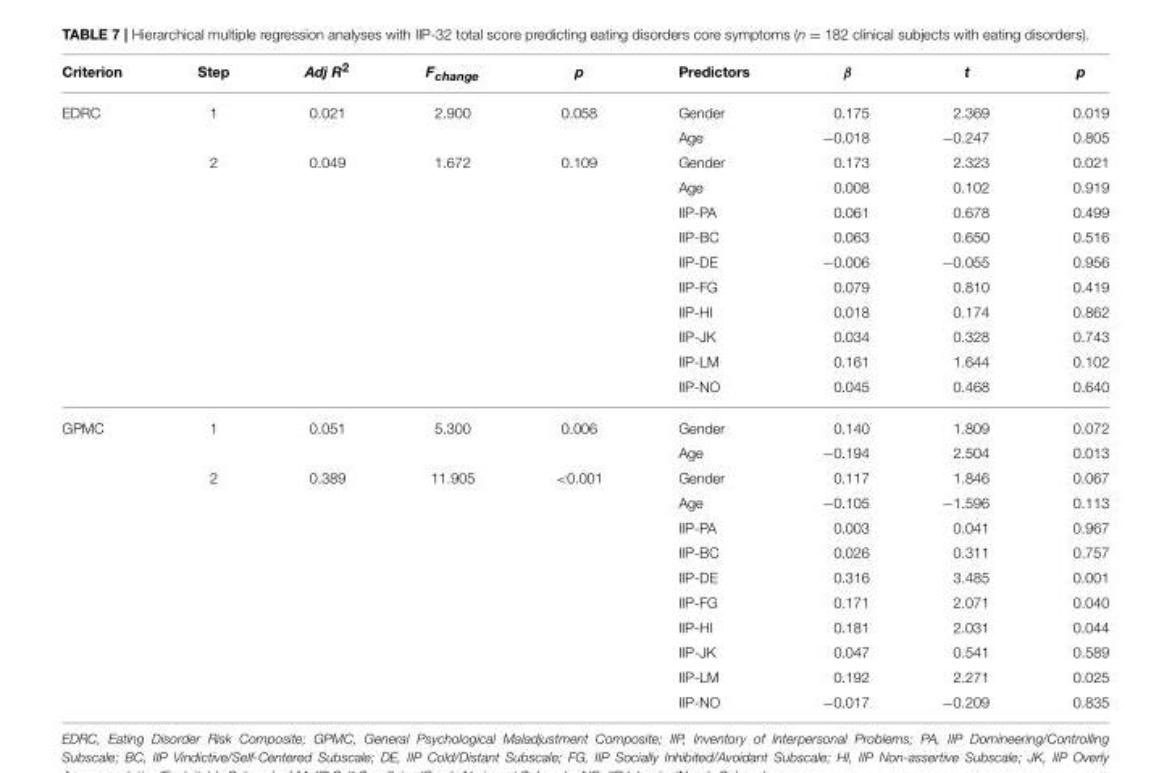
<table><thead><tr><td>Criterion</td><td>Step</td><td>Adj R<sup>2</sup></td><td>F<sub>change</sub></td><td>p</td><td>Predictors</td><td>β</td><td>t</td><td>p</td></tr></thead><tbody><tr><td rowspan="12">EDRC</td><td>1</td><td>0.021</td><td>2.900</td><td>0.058</td><td>Gender</td><td>0.175</td><td>2.369</td><td>0.019</td></tr><tr><td></td><td></td><td></td><td></td><td>Age</td><td>−0.018</td><td>−0.247</td><td>0.805</td></tr><tr><td>2</td><td>0.049</td><td>1.672</td><td>0.109</td><td>Gender</td><td>0.173</td><td>2.323</td><td>0.021</td></tr><tr><td></td><td></td><td></td><td></td><td>Age</td><td>0.008</td><td>0.102</td><td>0.919</td></tr><tr><td></td><td></td><td></td><td></td><td>IIP-PA</td><td>0.061</td><td>0.678</td><td>0.499</td></tr><tr><td></td><td></td><td></td><td></td><td>IIP-BC</td><td>0.063</td><td>0.650</td><td>0.516</td></tr><tr><td></td><td></td><td></td><td></td><td>IIP-DE</td><td>−0.006</td><td>−0.055</td><td>0.956</td></tr><tr><td></td><td></td><td></td><td></td><td>IIP-FG</td><td>0.079</td><td>0.810</td><td>0.419</td></tr><tr><td></td><td></td><td></td><td></td><td>IIP-HI</td><td>0.018</td><td>0.174</td><td>0.862</td></tr><tr><td></td><td></td><td></td><td></td><td>IIP-JK</td><td>0.034</td><td>0.328</td><td>0.743</td></tr><tr><td></td><td></td><td></td><td></td><td>IIP-LM</td><td>0.161</td><td>1.644</td><td>0.102</td></tr><tr><td></td><td></td><td></td><td></td><td>IIP-NO</td><td>0.045</td><td>0.468</td><td>0.640</td></tr><tr><td rowspan="12">GPMC</td><td>1</td><td>0.051</td><td>5.300</td><td>0.006</td><td>Gender</td><td>0.140</td><td>1.809</td><td>0.072</td></tr><tr><td></td><td></td><td></td><td></td><td>Age</td><td>−0.194</td><td>2.504</td><td>0.013</td></tr><tr><td>2</td><td>0.389</td><td>11.905</td><td>&lt;0.001</td><td>Gender</td><td>0.117</td><td>1.846</td><td>0.067</td></tr><tr><td></td><td></td><td></td><td></td><td>Age</td><td>−0.105</td><td>−1.596</td><td>0.113</td></tr><tr><td></td><td></td><td></td><td></td><td>IIP-PA</td><td>0.003</td><td>0.041</td><td>0.967</td></tr><tr><td></td><td></td><td></td><td></td><td>IIP-BC</td><td>0.026</td><td>0.311</td><td>0.757</td></tr><tr><td></td><td></td><td></td><td></td><td>IIP-DE</td><td>0.316</td><td>3.485</td><td>0.001</td></tr><tr><td></td><td></td><td></td><td></td><td>IIP-FG</td><td>0.171</td><td>2.071</td><td>0.040</td></tr><tr><td></td><td></td><td></td><td></td><td>IIP-HI</td><td>0.181</td><td>2.031</td><td>0.044</td></tr><tr><td></td><td></td><td></td><td></td><td>IIP-JK</td><td>0.047</td><td>0.541</td><td>0.589</td></tr><tr><td></td><td></td><td></td><td></td><td>IIP-LM</td><td>0.192</td><td>2.271</td><td>0.025</td></tr><tr><td></td><td></td><td></td><td></td><td>IIP-NO</td><td>−0.017</td><td>−0.209</td><td>0.835</td></tr></tbody></table>